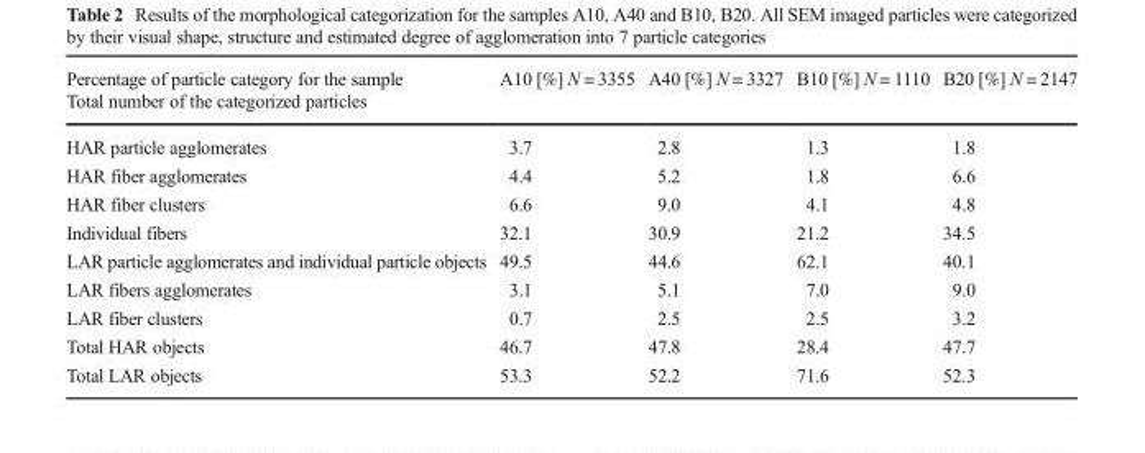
<table><thead><tr><td>Percentage of particle category for the sample Total number of the categorized particles</td><td>A10 [%] N = 3355</td><td>A40 [%] N = 3327</td><td>B10 [%] N = 1110</td><td>B20 [%] N = 2147</td></tr></thead><tbody><tr><td>HAR particle agglomerates</td><td>3.7</td><td>2.8</td><td>1.3</td><td>1.8</td></tr><tr><td>HAR fiber agglomerates</td><td>4.4</td><td>5.2</td><td>1.8</td><td>6.6</td></tr><tr><td>HAR fiber clusters</td><td>6.6</td><td>9.0</td><td>4.1</td><td>4.8</td></tr><tr><td>Individual fibers</td><td>32.1</td><td>30.9</td><td>21.2</td><td>34.5</td></tr><tr><td>LAR particle agglomerates and individual particle objects</td><td>49.5</td><td>44.6</td><td>62.1</td><td>40.1</td></tr><tr><td>LAR fibers agglomerates</td><td>3.1</td><td>5.1</td><td>7.0</td><td>9.0</td></tr><tr><td>LAR fiber clusters</td><td>0.7</td><td>2.5</td><td>2.5</td><td>3.2</td></tr><tr><td>Total HAR objects</td><td>46.7</td><td>47.8</td><td>28.4</td><td>47.7</td></tr><tr><td>Total LAR objects</td><td>53.3</td><td>52.2</td><td>71.6</td><td>52.3</td></tr></tbody></table>